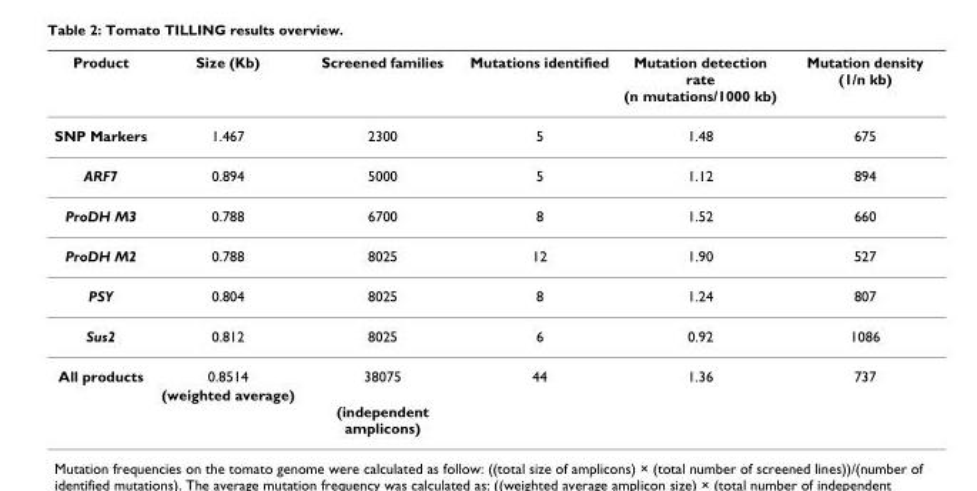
<table><thead><tr><td>Product</td><td>Size (Kb)</td><td>Screened families</td><td>Mutations identified</td><td>Mutation detection rate (n mutations/1000 kb)</td><td>Mutation density (1/n kb)</td></tr></thead><tbody><tr><td>SNP Markers</td><td>1.467</td><td>2300</td><td>5</td><td>1.48</td><td>675</td></tr><tr><td>ARF7</td><td>0.894</td><td>5000</td><td>5</td><td>1.12</td><td>894</td></tr><tr><td>ProDH M3</td><td>0.788</td><td>6700</td><td>8</td><td>1.52</td><td>660</td></tr><tr><td>ProDH M2</td><td>0.788</td><td>8025</td><td>12</td><td>1.90</td><td>527</td></tr><tr><td>PSY</td><td>0.804</td><td>8025</td><td>8</td><td>1.24</td><td>807</td></tr><tr><td>Sus2</td><td>0.812</td><td>8025</td><td>6</td><td>0.92</td><td>1086</td></tr><tr><td rowspan="2">All products</td><td>0.8514</td><td>38075</td><td>44</td><td>1.36</td><td>737</td></tr><tr><td>(weighted average)</td><td>(independent amplicons)</td><td></td><td></td><td></td></tr></tbody></table>